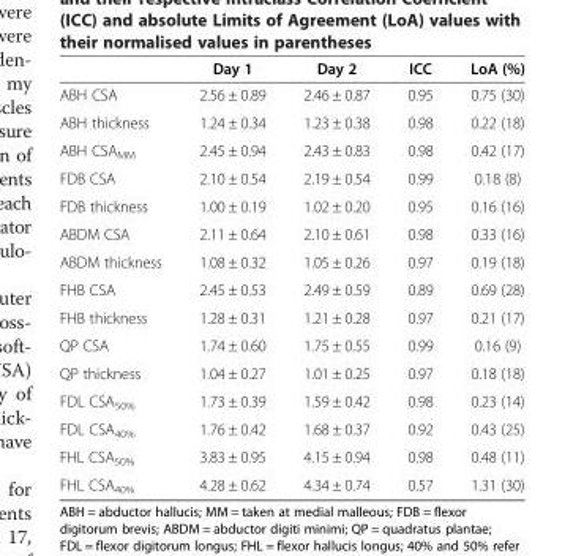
<table><thead><tr><td></td><td>Day 1</td><td>Day 2</td><td>ICC</td><td>LoA (%)</td></tr></thead><tbody><tr><td>ABH CSA</td><td>2.56 ± 0.89</td><td>2.46 ± 0.87</td><td>0.95</td><td>0.75 (30)</td></tr><tr><td>ABH thickness</td><td>1.24 ± 0.34</td><td>1.23 ± 0.38</td><td>0.98</td><td>0.22 (18)</td></tr><tr><td>ABH CSA<sub>MM</sub></td><td>2.45 ± 0.94</td><td>2.43 ± 0.83</td><td>0.98</td><td>0.42 (17)</td></tr><tr><td>FDB CSA</td><td>2.10 ± 0.54</td><td>2.19 ± 0.54</td><td>0.99</td><td>0.18 (8)</td></tr><tr><td>FDB thickness</td><td>1.00 ± 0.19</td><td>1.02 ± 0.20</td><td>0.95</td><td>0.16 (16)</td></tr><tr><td>ABDM CSA</td><td>2.11 ± 0.64</td><td>2.10 ± 0.61</td><td>0.98</td><td>0.33 (16)</td></tr><tr><td>ABDM thickness</td><td>1.08 ± 0.32</td><td>1.05 ± 0.26</td><td>0.97</td><td>0.19 (18)</td></tr><tr><td>FHB CSA</td><td>2.45 ± 0.53</td><td>2.49 ± 0.59</td><td>0.89</td><td>0.69 (28)</td></tr><tr><td>FHB thickness</td><td>1.28 ± 0.31</td><td>1.21 ± 0.28</td><td>0.97</td><td>0.21 (17)</td></tr><tr><td>QP CSA</td><td>1.74 ± 0.60</td><td>1.75 ± 0.55</td><td>0.99</td><td>0.16 (9)</td></tr><tr><td>QP thickness</td><td>1.04 ± 0.27</td><td>1.01 ± 0.25</td><td>0.97</td><td>0.18 (18)</td></tr><tr><td>FDL CSA<sub>50%</sub></td><td>1.73 ± 0.39</td><td>1.59 ± 0.42</td><td>0.98</td><td>0.23 (14)</td></tr><tr><td>FDL CSA<sub>40%</sub></td><td>1.76 ± 0.42</td><td>1.68 ± 0.37</td><td>0.92</td><td>0.43 (25)</td></tr><tr><td>FHL CSA<sub>50%</sub></td><td>3.83 ± 0.95</td><td>4.15 ± 0.94</td><td>0.98</td><td>0.48 (11)</td></tr><tr><td>FHL CSA<sub>40%</sub></td><td>4.28 ± 0.62</td><td>4.34 ± 0.74</td><td>0.57</td><td>1.31 (30)</td></tr></tbody></table>